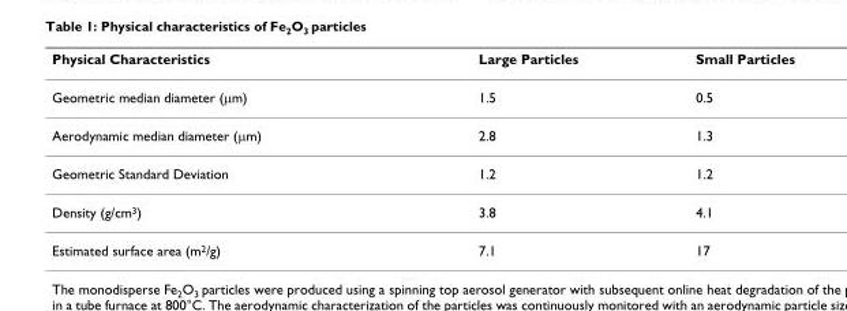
<table><thead><tr><td>Physical Characteristics</td><td>Large Particles</td><td>Small Particles</td></tr></thead><tbody><tr><td>Geometric median diameter (μm)</td><td>1.5</td><td>0.5</td></tr><tr><td>Aerodynamic median diameter (μm)</td><td>2.8</td><td>1.3</td></tr><tr><td>Geometric Standard Deviation</td><td>1.2</td><td>1.2</td></tr><tr><td>Density (g/cm<sup>3</sup>)</td><td>3.8</td><td>4.1</td></tr><tr><td>Estimated surface area (m<sup>2</sup>/g)</td><td>7.1</td><td>17</td></tr></tbody></table>